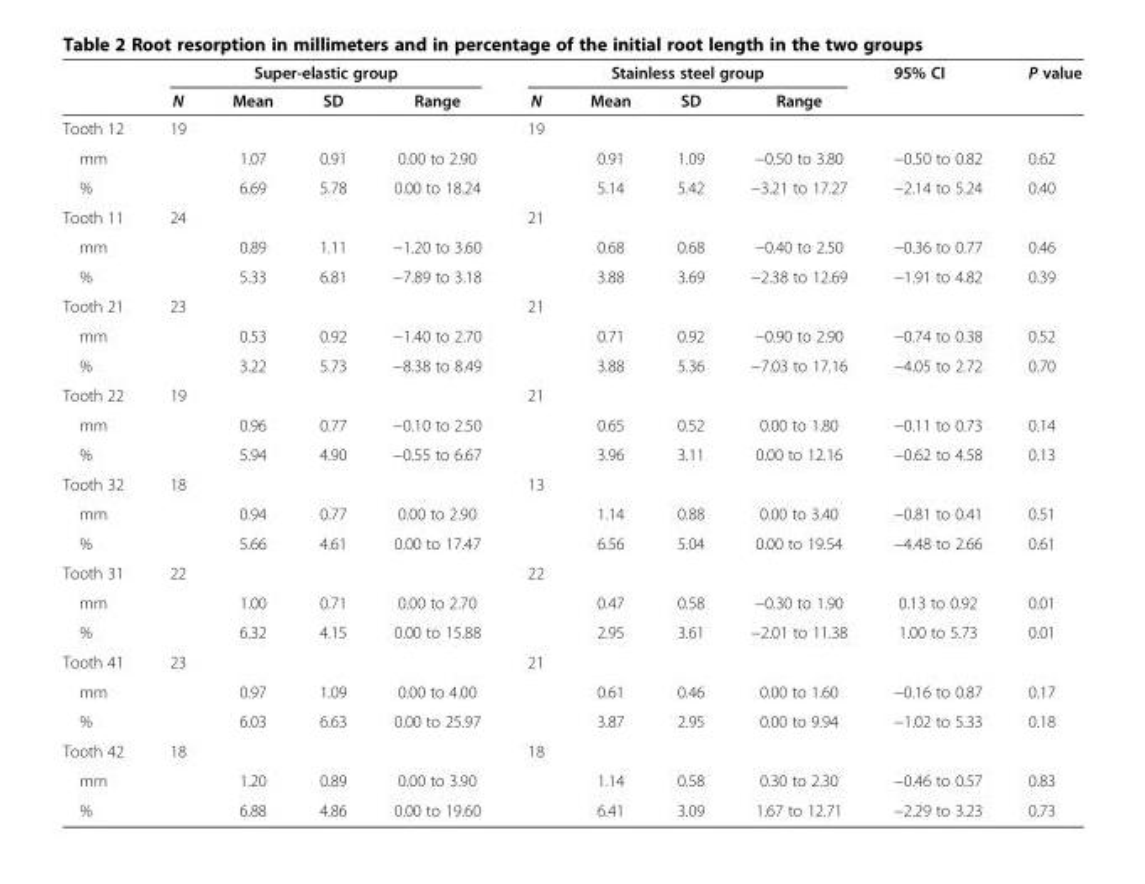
<table><thead><tr><td rowspan="2"></td><td colspan="4">Super-elastic group</td><td colspan="4">Stainless steel group</td><td rowspan="2">95% CI</td><td rowspan="2">P value</td></tr><tr><td>N</td><td>Mean</td><td>SD</td><td>Range</td><td>N</td><td>Mean</td><td>SD</td><td>Range</td></tr></thead><tbody><tr><td>Tooth 12</td><td>19</td><td></td><td></td><td></td><td>19</td><td></td><td></td><td></td><td></td><td></td></tr><tr><td>mm</td><td></td><td>1.07</td><td>0.91</td><td>0.00 to 2.90</td><td></td><td>0.91</td><td>1.09</td><td>−0.50 to 3.80</td><td>−0.50 to 0.82</td><td>0.62</td></tr><tr><td>%</td><td></td><td>6.69</td><td>5.78</td><td>0.00 to 18.24</td><td></td><td>5.14</td><td>5.42</td><td>−3.21 to 17.27</td><td>−2.14 to 5.24</td><td>0.40</td></tr><tr><td>Tooth 11</td><td>24</td><td></td><td></td><td></td><td>21</td><td></td><td></td><td></td><td></td><td></td></tr><tr><td>mm</td><td></td><td>0.89</td><td>1.11</td><td>−1.20 to 3.60</td><td></td><td>0.68</td><td>0.68</td><td>−0.40 to 2.50</td><td>−0.36 to 0.77</td><td>0.46</td></tr><tr><td>%</td><td></td><td>5.33</td><td>6.81</td><td>−7.89 to 3.18</td><td></td><td>3.88</td><td>3.69</td><td>−2.38 to 12.69</td><td>−1.91 to 4.82</td><td>0.39</td></tr><tr><td>Tooth 21</td><td>23</td><td></td><td></td><td></td><td>21</td><td></td><td></td><td></td><td></td><td></td></tr><tr><td>mm</td><td></td><td>0.53</td><td>0.92</td><td>−1.40 to 2.70</td><td></td><td>0.71</td><td>0.92</td><td>−0.90 to 2.90</td><td>−0.74 to 0.38</td><td>0.52</td></tr><tr><td>%</td><td></td><td>3.22</td><td>5.73</td><td>−8.38 to 8.49</td><td></td><td>3.88</td><td>5.36</td><td>−7.03 to 17.16</td><td>−4.05 to 2.72</td><td>0.70</td></tr><tr><td>Tooth 22</td><td>19</td><td></td><td></td><td></td><td>21</td><td></td><td></td><td></td><td></td><td></td></tr><tr><td>mm</td><td></td><td>0.96</td><td>0.77</td><td>−0.10 to 2.50</td><td></td><td>0.65</td><td>0.52</td><td>0.00 to 1.80</td><td>−0.11 to 0.73</td><td>0.14</td></tr><tr><td>%</td><td></td><td>5.94</td><td>4.90</td><td>−0.55 to 6.67</td><td></td><td>3.96</td><td>3.11</td><td>0.00 to 12.16</td><td>−0.62 to 4.58</td><td>0.13</td></tr><tr><td>Tooth 32</td><td>18</td><td></td><td></td><td></td><td>13</td><td></td><td></td><td></td><td></td><td></td></tr><tr><td>mm</td><td></td><td>0.94</td><td>0.77</td><td>0.00 to 2.90</td><td></td><td>1.14</td><td>0.88</td><td>0.00 to 3.40</td><td>−0.81 to 0.41</td><td>0.51</td></tr><tr><td>%</td><td></td><td>5.66</td><td>4.61</td><td>0.00 to 17.47</td><td></td><td>6.56</td><td>5.04</td><td>0.00 to 19.54</td><td>−4.48 to 2.66</td><td>0.61</td></tr><tr><td>Tooth 31</td><td>22</td><td></td><td></td><td></td><td>22</td><td></td><td></td><td></td><td></td><td></td></tr><tr><td>mm</td><td></td><td>1.00</td><td>0.71</td><td>0.00 to 2.70</td><td></td><td>0.47</td><td>0.58</td><td>−0.30 to 1.90</td><td>0.13 to 0.92</td><td>0.01</td></tr><tr><td>%</td><td></td><td>6.32</td><td>4.15</td><td>0.00 to 15.88</td><td></td><td>2.95</td><td>3.61</td><td>−2.01 to 11.38</td><td>1.00 to 5.73</td><td>0.01</td></tr><tr><td>Tooth 41</td><td>23</td><td></td><td></td><td></td><td>21</td><td></td><td></td><td></td><td></td><td></td></tr><tr><td>mm</td><td></td><td>0.97</td><td>1.09</td><td>0.00 to 4.00</td><td></td><td>0.61</td><td>0.46</td><td>0.00 to 1.60</td><td>−0.16 to 0.87</td><td>0.17</td></tr><tr><td>%</td><td></td><td>6.03</td><td>6.63</td><td>0.00 to 25.97</td><td></td><td>3.87</td><td>2.95</td><td>0.00 to 9.94</td><td>−1.02 to 5.33</td><td>0.18</td></tr><tr><td>Tooth 42</td><td>18</td><td></td><td></td><td></td><td>18</td><td></td><td></td><td></td><td></td><td></td></tr><tr><td>mm</td><td></td><td>1.20</td><td>0.89</td><td>0.00 to 3.90</td><td></td><td>1.14</td><td>0.58</td><td>0.30 to 2.30</td><td>−0.46 to 0.57</td><td>0.83</td></tr><tr><td>%</td><td></td><td>6.88</td><td>4.86</td><td>0.00 to 19.60</td><td></td><td>6.41</td><td>3.09</td><td>1.67 to 12.71</td><td>−2.29 to 3.23</td><td>0.73</td></tr></tbody></table>